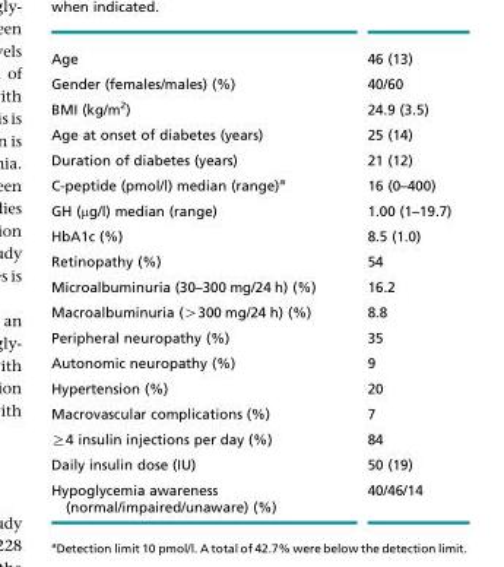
<table><tbody><tr><td>Age</td><td>46 (13)</td></tr><tr><td>Gender (females/males) (%)</td><td>40/60</td></tr><tr><td>BMI (kg/m<sup>2</sup>)</td><td>24.9 (3.5)</td></tr><tr><td>Age at onset of diabetes (years)</td><td>25 (14)</td></tr><tr><td>Duration of diabetes (years)</td><td>21 (12)</td></tr><tr><td>C-peptide (pmol/l) median (range)<sup>a</sup></td><td>16 (0–400)</td></tr><tr><td>GH (μg/l) median (range)</td><td>1.00 (1–19.7)</td></tr><tr><td>HbA1c (%)</td><td>8.5 (1.0)</td></tr><tr><td>Retinopathy (%)</td><td>54</td></tr><tr><td>Microalbuminuria (30–300 mg/24 h) (%)</td><td>16.2</td></tr><tr><td>Macroalbuminuria (&gt;300 mg/24 h) (%)</td><td>8.8</td></tr><tr><td>Peripheral neuropathy (%)</td><td>35</td></tr><tr><td>Autonomic neuropathy (%)</td><td>9</td></tr><tr><td>Hypertension (%)</td><td>20</td></tr><tr><td>Macrovascular complications (%)</td><td>7</td></tr><tr><td>≥4 insulin injections per day (%)</td><td>84</td></tr><tr><td>Daily insulin dose (IU)</td><td>50 (19)</td></tr><tr><td>Hypoglycemia awareness (normal/impaired/unaware) (%)</td><td>40/46/14</td></tr></tbody></table>